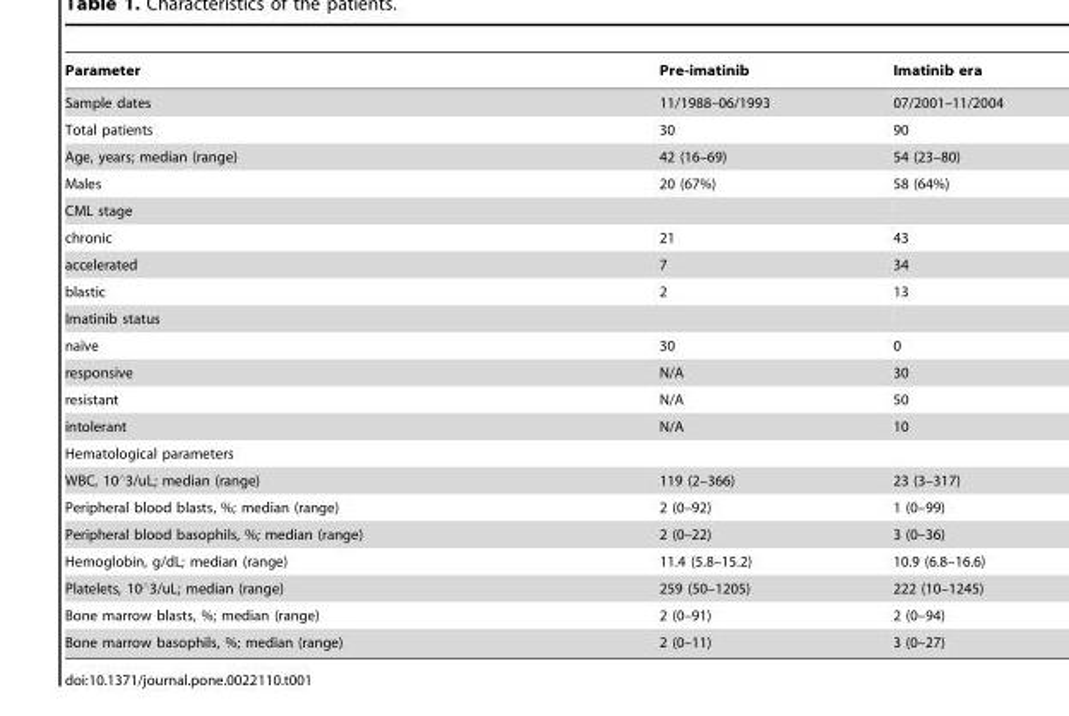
<table><thead><tr><td>Parameter</td><td>Pre-imatinib</td><td>Imatinib era</td></tr></thead><tbody><tr><td>Sample dates</td><td>11/1988–06/1993</td><td>07/2001–11/2004</td></tr><tr><td>Total patients</td><td>30</td><td>90</td></tr><tr><td>Age, years; median (range)</td><td>42 (16–69)</td><td>54 (23–80)</td></tr><tr><td>Males</td><td>20 (67%)</td><td>58 (64%)</td></tr><tr><td colspan="3">CML stage</td></tr><tr><td>chronic</td><td>21</td><td>43</td></tr><tr><td>accelerated</td><td>7</td><td>34</td></tr><tr><td>blastic</td><td>2</td><td>13</td></tr><tr><td colspan="3">Imatinib status</td></tr><tr><td>naı¨ve</td><td>30</td><td>0</td></tr><tr><td>responsive</td><td>N/A</td><td>30</td></tr><tr><td>resistant</td><td>N/A</td><td>50</td></tr><tr><td>intolerant</td><td>N/A</td><td>10</td></tr><tr><td colspan="3">Hematological parameters</td></tr><tr><td>WBC, 10‘3/uL; median (range)</td><td>119 (2–366)</td><td>23 (3–317)</td></tr><tr><td>Peripheral blood blasts, %; median (range)</td><td>2 (0–92)</td><td>1 (0–99)</td></tr><tr><td>Peripheral blood basophils, %; median (range)</td><td>2 (0–22)</td><td>3 (0–36)</td></tr><tr><td>Hemoglobin, g/dL; median (range)</td><td>11.4 (5.8–15.2)</td><td>10.9 (6.8–16.6)</td></tr><tr><td>Platelets, 10‘3/uL; median (range)</td><td>259 (50–1205)</td><td>222 (10–1245)</td></tr><tr><td>Bone marrow blasts, %; median (range)</td><td>2 (0–91)</td><td>2 (0–94)</td></tr><tr><td>Bone marrow basophils, %; median (range)</td><td>2 (0–11)</td><td>3 (0–27)</td></tr></tbody></table>